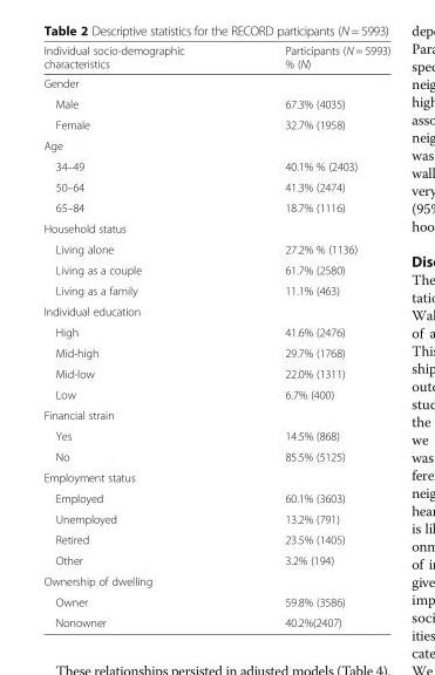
<table><thead><tr><td>Individual socio-demographic characteristics</td><td>Participants (N = 5993) % (N)</td></tr></thead><tbody><tr><td colspan="2">Gender</td></tr><tr><td>Male</td><td>67.3% (4035)</td></tr><tr><td>Female</td><td>32.7% (1958)</td></tr><tr><td colspan="2">Age</td></tr><tr><td>34–49</td><td>40.1% % (2403)</td></tr><tr><td>50–64</td><td>41.3% (2474)</td></tr><tr><td>65–84</td><td>18.7% (1116)</td></tr><tr><td colspan="2">Household status</td></tr><tr><td>Living alone</td><td>27.2% % (1136)</td></tr><tr><td>Living as a couple</td><td>61.7% (2580)</td></tr><tr><td>Living as a family</td><td>11.1% (463)</td></tr><tr><td colspan="2">Individual education</td></tr><tr><td>High</td><td>41.6% (2476)</td></tr><tr><td>Mid-high</td><td>29.7% (1768)</td></tr><tr><td>Mid-low</td><td>22.0% (1311)</td></tr><tr><td>Low</td><td>6.7% (400)</td></tr><tr><td colspan="2">Financial strain</td></tr><tr><td>Yes</td><td>14.5% (868)</td></tr><tr><td>No</td><td>85.5% (5125)</td></tr><tr><td colspan="2">Employment status</td></tr><tr><td>Employed</td><td>60.1% (3603)</td></tr><tr><td>Unemployed</td><td>13.2% (791)</td></tr><tr><td>Retired</td><td>23.5% (1405)</td></tr><tr><td>Other</td><td>3.2% (194)</td></tr><tr><td colspan="2">Ownership of dwelling</td></tr><tr><td>Owner</td><td>59.8% (3586)</td></tr><tr><td>Nonowner</td><td>40.2%(2407)</td></tr></tbody></table>